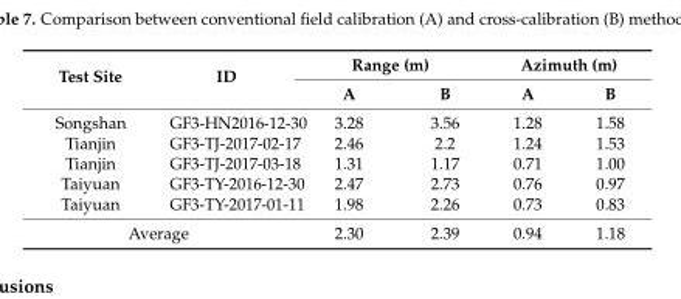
<table><thead><tr><td rowspan="2">Test Site</td><td rowspan="2">ID</td><td colspan="2">Range (m)</td><td colspan="2">Azimuth (m)</td></tr><tr><td>A</td><td>B</td><td>A</td><td>B</td></tr></thead><tbody><tr><td>Songshan</td><td>GF3-HN2016-12-30</td><td>3.28</td><td>3.56</td><td>1.28</td><td>1.58</td></tr><tr><td>Tianjin</td><td>GF3-TJ-2017-02-17</td><td>2.46</td><td>2.2</td><td>1.24</td><td>1.53</td></tr><tr><td>Tianjin</td><td>GF3-TJ-2017-03-18</td><td>1.31</td><td>1.17</td><td>0.71</td><td>1.00</td></tr><tr><td>Taiyuan</td><td>GF3-TY-2016-12-30</td><td>2.47</td><td>2.73</td><td>0.76</td><td>0.97</td></tr><tr><td>Taiyuan</td><td>GF3-TY-2017-01-11</td><td>1.98</td><td>2.26</td><td>0.73</td><td>0.83</td></tr><tr><td colspan="2">Average</td><td>2.30</td><td>2.39</td><td>0.94</td><td>1.18</td></tr></tbody></table>